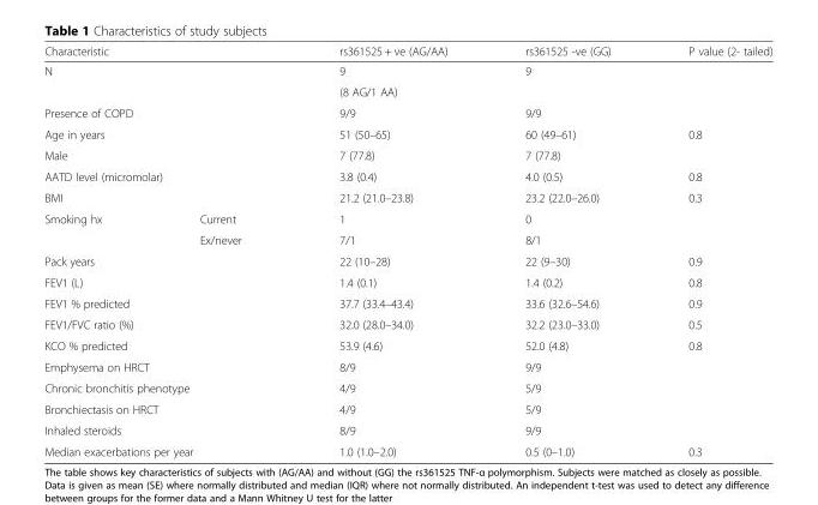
<table><thead><tr><td colspan="2">Characteristic</td><td>rs361525 + ve (AG/AA)</td><td>rs361525 -ve (GG)</td><td>P value (2- tailed)</td></tr></thead><tbody><tr><td rowspan="2" colspan="2">N</td><td>9</td><td rowspan="2">9</td><td rowspan="2"></td></tr><tr><td>(8 AG/1 AA)</td></tr><tr><td colspan="2">Presence of COPD</td><td>9/9</td><td>9/9</td><td></td></tr><tr><td colspan="2">Age in years</td><td>51 (50–65)</td><td>60 (49–61)</td><td>0.8</td></tr><tr><td colspan="2">Male</td><td>7 (77.8)</td><td>7 (77.8)</td><td></td></tr><tr><td colspan="2">AATD level (micromolar)</td><td>3.8 (0.4)</td><td>4.0 (0.5)</td><td>0.8</td></tr><tr><td colspan="2">BMI</td><td>21.2 (21.0–23.8)</td><td>23.2 (22.0–26.0)</td><td>0.3</td></tr><tr><td rowspan="2">Smoking hx</td><td>Current</td><td>1</td><td>0</td><td></td></tr><tr><td>Ex/never</td><td>7/1</td><td>8/1</td><td></td></tr><tr><td colspan="2">Pack years</td><td>22 (10–28)</td><td>22 (9–30)</td><td>0.9</td></tr><tr><td colspan="2">FEV1 (L)</td><td>1.4 (0.1)</td><td>1.4 (0.2)</td><td>0.8</td></tr><tr><td colspan="2">FEV1 % predicted</td><td>37.7 (33.4–43.4)</td><td>33.6 (32.6–54.6)</td><td>0.9</td></tr><tr><td colspan="2">FEV1/FVC ratio (%)</td><td>32.0 (28.0–34.0)</td><td>32.2 (23.0–33.0)</td><td>0.5</td></tr><tr><td colspan="2">KCO % predicted</td><td>53.9 (4.6)</td><td>52.0 (4.8)</td><td>0.8</td></tr><tr><td colspan="2">Emphysema on HRCT</td><td>8/9</td><td>9/9</td><td></td></tr><tr><td colspan="2">Chronic bronchitis phenotype</td><td>4/9</td><td>5/9</td><td></td></tr><tr><td colspan="2">Bronchiectasis on HRCT</td><td>4/9</td><td>5/9</td><td></td></tr><tr><td colspan="2">Inhaled steroids</td><td>8/9</td><td>9/9</td><td></td></tr><tr><td colspan="2">Median exacerbations per year</td><td>1.0 (1.0–2.0)</td><td>0.5 (0–1.0)</td><td>0.3</td></tr></tbody></table>